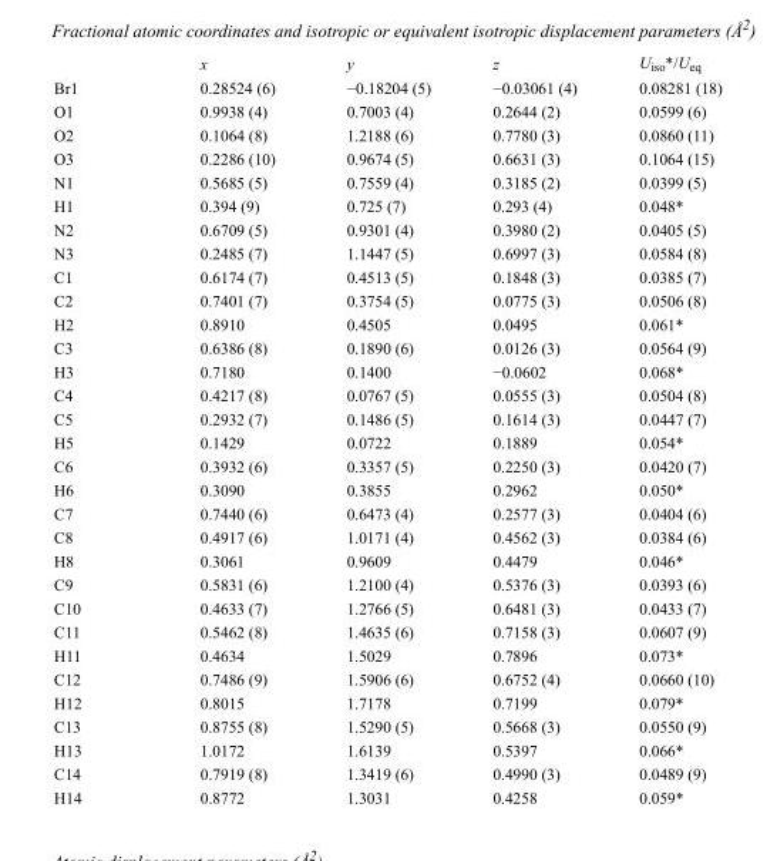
<table><thead><tr><td></td><td>x</td><td>y</td><td>z</td><td>U<sub>iso</sub>*/U<sub>eq</sub></td></tr></thead><tbody><tr><td>Br1</td><td>0.28524 (6)</td><td>−0.18204 (5)</td><td>−0.03061 (4)</td><td>0.08281 (18)</td></tr><tr><td>O1</td><td>0.9938 (4)</td><td>0.7003 (4)</td><td>0.2644 (2)</td><td>0.0599 (6)</td></tr><tr><td>O2</td><td>0.1064 (8)</td><td>1.2188 (6)</td><td>0.7780 (3)</td><td>0.0860 (11)</td></tr><tr><td>O3</td><td>0.2286 (10)</td><td>0.9674 (5)</td><td>0.6631 (3)</td><td>0.1064 (15)</td></tr><tr><td>N1</td><td>0.5685 (5)</td><td>0.7559 (4)</td><td>0.3185 (2)</td><td>0.0399 (5)</td></tr><tr><td>H1</td><td>0.394 (9)</td><td>0.725 (7)</td><td>0.293 (4)</td><td>0.048*</td></tr><tr><td>N2</td><td>0.6709 (5)</td><td>0.9301 (4)</td><td>0.3980 (2)</td><td>0.0405 (5)</td></tr><tr><td>N3</td><td>0.2485 (7)</td><td>1.1447 (5)</td><td>0.6997 (3)</td><td>0.0584 (8)</td></tr><tr><td>C1</td><td>0.6174 (7)</td><td>0.4513 (5)</td><td>0.1848 (3)</td><td>0.0385 (7)</td></tr><tr><td>C2</td><td>0.7401 (7)</td><td>0.3754 (5)</td><td>0.0775 (3)</td><td>0.0506 (8)</td></tr><tr><td>H2</td><td>0.8910</td><td>0.4505</td><td>0.0495</td><td>0.061*</td></tr><tr><td>C3</td><td>0.6386 (8)</td><td>0.1890 (6)</td><td>0.0126 (3)</td><td>0.0564 (9)</td></tr><tr><td>H3</td><td>0.7180</td><td>0.1400</td><td>−0.0602</td><td>0.068*</td></tr><tr><td>C4</td><td>0.4217 (8)</td><td>0.0767 (5)</td><td>0.0555 (3)</td><td>0.0504 (8)</td></tr><tr><td>C5</td><td>0.2932 (7)</td><td>0.1486 (5)</td><td>0.1614 (3)</td><td>0.0447 (7)</td></tr><tr><td>H5</td><td>0.1429</td><td>0.0722</td><td>0.1889</td><td>0.054*</td></tr><tr><td>C6</td><td>0.3932 (6)</td><td>0.3357 (5)</td><td>0.2250 (3)</td><td>0.0420 (7)</td></tr><tr><td>H6</td><td>0.3090</td><td>0.3855</td><td>0.2962</td><td>0.050*</td></tr><tr><td>C7</td><td>0.7440 (6)</td><td>0.6473 (4)</td><td>0.2577 (3)</td><td>0.0404 (6)</td></tr><tr><td>C8</td><td>0.4917 (6)</td><td>1.0171 (4)</td><td>0.4562 (3)</td><td>0.0384 (6)</td></tr><tr><td>H8</td><td>0.3061</td><td>0.9609</td><td>0.4479</td><td>0.046*</td></tr><tr><td>C9</td><td>0.5831 (6)</td><td>1.2100 (4)</td><td>0.5376 (3)</td><td>0.0393 (6)</td></tr><tr><td>C10</td><td>0.4633 (7)</td><td>1.2766 (5)</td><td>0.6481 (3)</td><td>0.0433 (7)</td></tr><tr><td>C11</td><td>0.5462 (8)</td><td>1.4635 (6)</td><td>0.7158 (3)</td><td>0.0607 (9)</td></tr><tr><td>H11</td><td>0.4634</td><td>1.5029</td><td>0.7896</td><td>0.073*</td></tr><tr><td>C12</td><td>0.7486 (9)</td><td>1.5906 (6)</td><td>0.6752 (4)</td><td>0.0660 (10)</td></tr><tr><td>H12</td><td>0.8015</td><td>1.7178</td><td>0.7199</td><td>0.079*</td></tr><tr><td>C13</td><td>0.8755 (8)</td><td>1.5290 (5)</td><td>0.5668 (3)</td><td>0.0550 (9)</td></tr><tr><td>H13</td><td>1.0172</td><td>1.6139</td><td>0.5397</td><td>0.066*</td></tr><tr><td>C14</td><td>0.7919 (8)</td><td>1.3419 (6)</td><td>0.4990 (3)</td><td>0.0489 (9)</td></tr><tr><td>H14</td><td>0.8772</td><td>1.3031</td><td>0.4258</td><td>0.059*</td></tr></tbody></table>